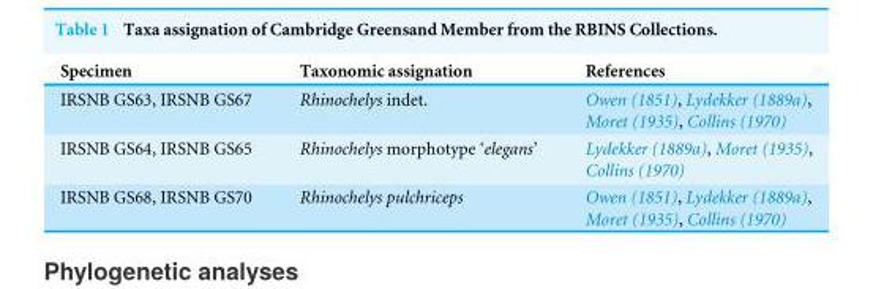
<table><thead><tr><td>Specimen</td><td>Taxonomic assignation</td><td>References</td></tr></thead><tbody><tr><td>IRSNB GS63, IRSNB GS67</td><td>Rhinochelys indet.</td><td>Owen (1851), Lydekker (1889a), Moret (1935), Collins (1970)</td></tr><tr><td>IRSNB GS64, IRSNB GS65</td><td>Rhinochelys morphotype ‘elegans’</td><td>Lydekker (1889a), Moret (1935), Collins (1970)</td></tr><tr><td>IRSNB GS68, IRSNB GS70</td><td>Rhinochelys pulchriceps</td><td>Owen (1851), Lydekker (1889a), Moret (1935), Collins (1970)</td></tr></tbody></table>